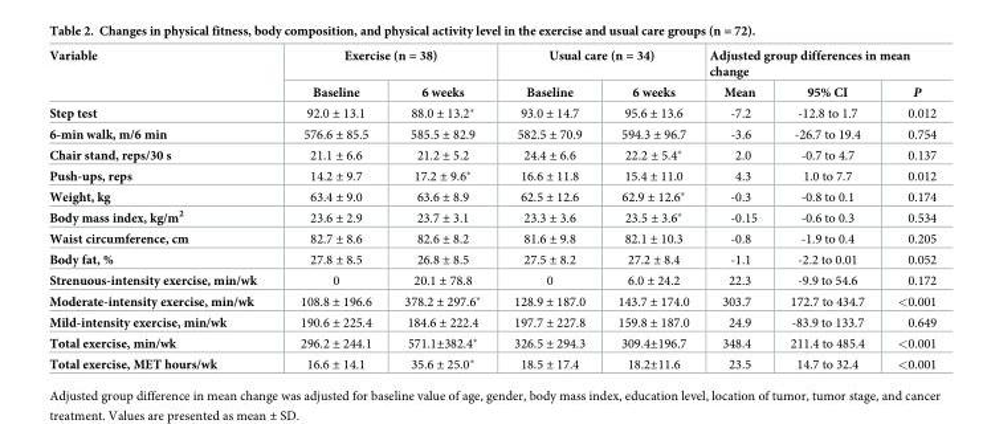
<table><thead><tr><td rowspan="2">Variable</td><td colspan="2">Exercise (n = 38)</td><td colspan="2">Usual care (n = 34)</td><td colspan="3">Adjusted group differences in mean change</td></tr><tr><td>Baseline</td><td>6 weeks</td><td>Baseline</td><td>6 weeks</td><td>Mean</td><td>95% CI</td><td>P</td></tr></thead><tbody><tr><td>Step test</td><td>92.0 ± 13.1</td><td>88.0 ± 13.2*</td><td>93.0 ± 14.7</td><td>95.6 ± 13.6</td><td>-7.2</td><td>-12.8 to 1.7</td><td>0.012</td></tr><tr><td>6-min walk, m/6 min</td><td>576.6 ± 85.5</td><td>585.5 ± 82.9</td><td>582.5 ± 70.9</td><td>594.3 ± 96.7</td><td>-3.6</td><td>-26.7 to 19.4</td><td>0.754</td></tr><tr><td>Chair stand, reps/30 s</td><td>21.1 ± 6.6</td><td>21.2 ± 5.2</td><td>24.4 ± 6.6</td><td>22.2 ± 5.4*</td><td>2.0</td><td>-0.7 to 4.7</td><td>0.137</td></tr><tr><td>Push-ups, reps</td><td>14.2 ± 9.7</td><td>17.2 ± 9.6*</td><td>16.6 ± 11.8</td><td>15.4 ± 11.0</td><td>4.3</td><td>1.0 to 7.7</td><td>0.012</td></tr><tr><td>Weight, kg</td><td>63.4 ± 9.0</td><td>63.6 ± 8.9</td><td>62.5 ± 12.6</td><td>62.9 ± 12.6*</td><td>-0.3</td><td>-0.8 to 0.1</td><td>0.174</td></tr><tr><td>Body mass index, kg/m<sup>2</sup></td><td>23.6 ± 2.9</td><td>23.7 ± 3.1</td><td>23.3 ± 3.6</td><td>23.5 ± 3.6*</td><td>-0.15</td><td>-0.6 to 0.3</td><td>0.534</td></tr><tr><td>Waist circumference, cm</td><td>82.7 ± 8.6</td><td>82.6 ± 8.2</td><td>81.6 ± 9.8</td><td>82.1 ± 10.3</td><td>-0.8</td><td>-1.9 to 0.4</td><td>0.205</td></tr><tr><td>Body fat, %</td><td>27.8 ± 8.5</td><td>26.8 ± 8.5</td><td>27.5 ± 8.2</td><td>27.2 ± 8.4</td><td>-1.1</td><td>-2.2 to 0.01</td><td>0.052</td></tr><tr><td>Strenuous-intensity exercise, min/wk</td><td>0</td><td>20.1 ± 78.8</td><td>0</td><td>6.0 ± 24.2</td><td>22.3</td><td>-9.9 to 54.6</td><td>0.172</td></tr><tr><td>Moderate-intensity exercise, min/wk</td><td>108.8 ± 196.6</td><td>378.2 ± 297.6*</td><td>128.9 ± 187.0</td><td>143.7 ± 174.0</td><td>303.7</td><td>172.7 to 434.7</td><td>&lt;0.001</td></tr><tr><td>Mild-intensity exercise, min/wk</td><td>190.6 ± 225.4</td><td>184.6 ± 222.4</td><td>197.7 ± 227.8</td><td>159.8 ± 187.0</td><td>24.9</td><td>-83.9 to 133.7</td><td>0.649</td></tr><tr><td>Total exercise, min/wk</td><td>296.2 ± 244.1</td><td>571.1±382.4*</td><td>326.5 ± 294.3</td><td>309.4±196.7</td><td>348.4</td><td>211.4 to 485.4</td><td>&lt;0.001</td></tr><tr><td>Total exercise, MET hours/wk</td><td>16.6 ± 14.1</td><td>35.6 ± 25.0*</td><td>18.5 ± 17.4</td><td>18.2±11.6</td><td>23.5</td><td>14.7 to 32.4</td><td>&lt;0.001</td></tr></tbody></table>